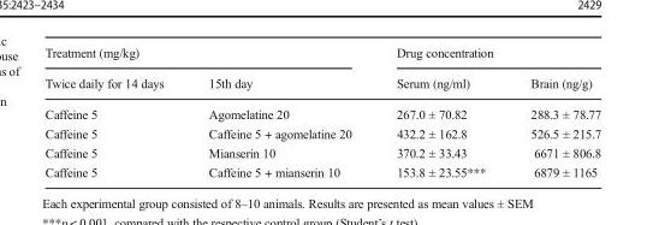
<table><thead><tr><td colspan="2">Treatment (mg/kg)</td><td colspan="2">Drug concentration</td></tr><tr><td>Twice daily for 14 days</td><td>15th day</td><td>Serum (ng/ml)</td><td>Brain (ng/g)</td></tr></thead><tbody><tr><td>Caffeine 5</td><td>Agomelatine 20</td><td>267.0 ± 70.82</td><td>288.3 ± 78.77</td></tr><tr><td>Caffeine 5</td><td>Caffeine 5 + agomelatine 20</td><td>432.2 ± 162.8</td><td>526.5 ± 215.7</td></tr><tr><td>Caffeine 5</td><td>Mianserin 10</td><td>370.2 ± 33.43</td><td>6671 ± 806.8</td></tr><tr><td>Caffeine 5</td><td>Caffeine 5 + mianserin 10</td><td>153.8 ± 23.55***</td><td>6879 ± 1165</td></tr></tbody></table>